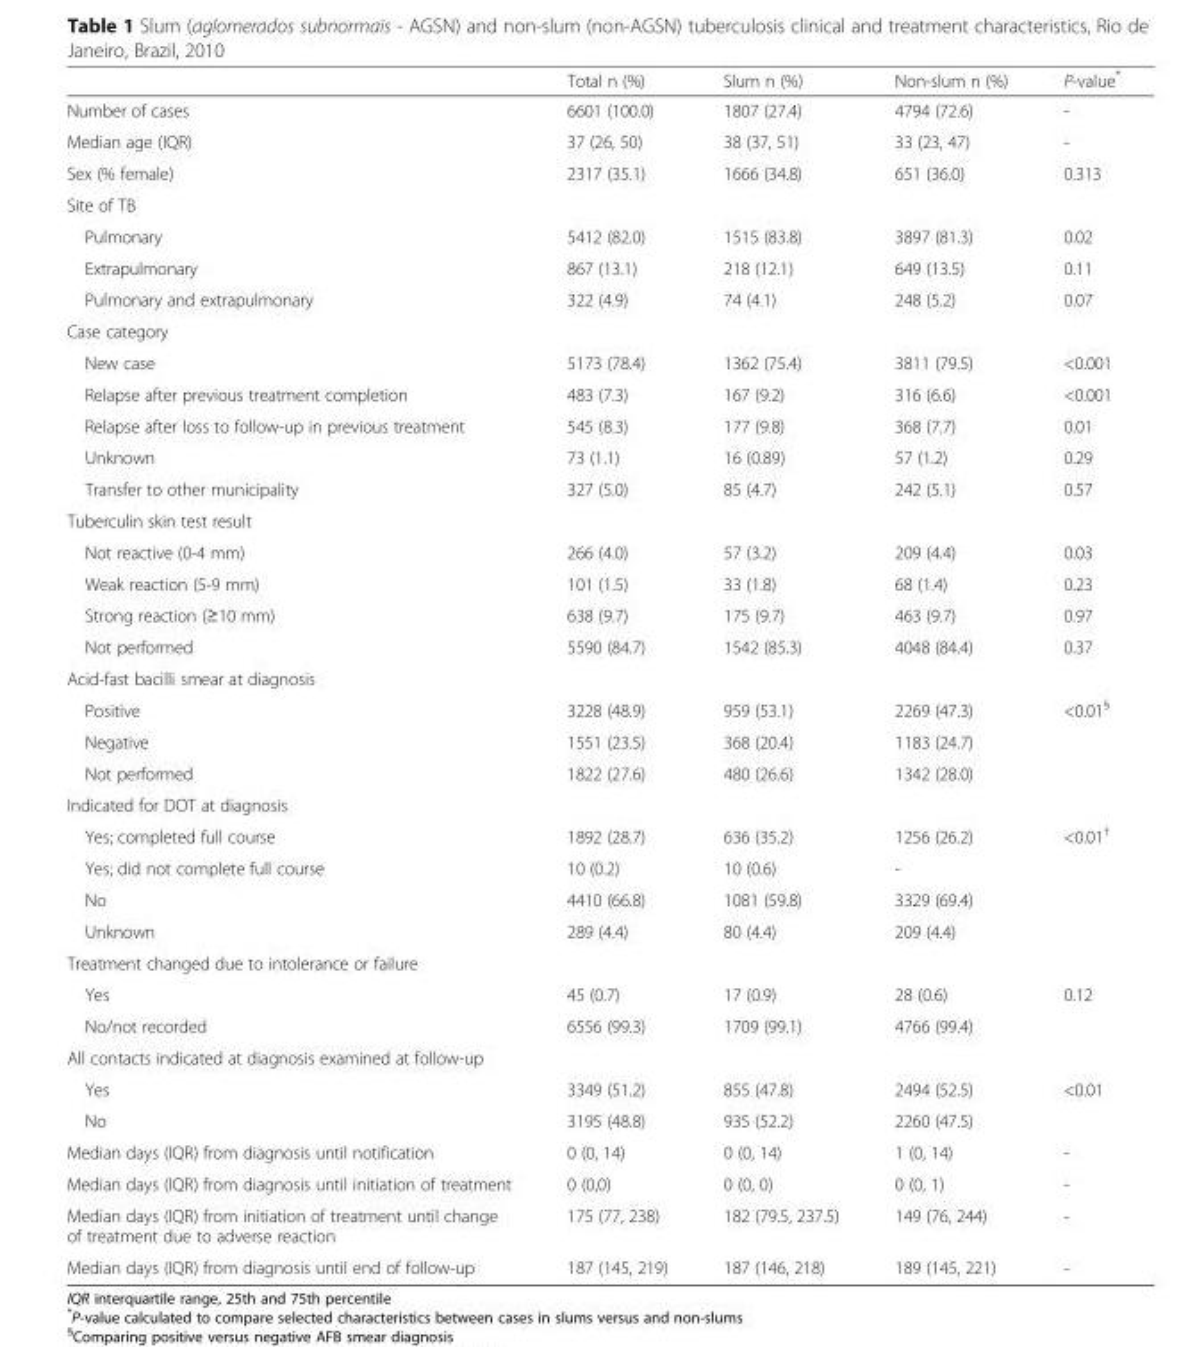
<table><thead><tr><td></td><td>Total n (%)</td><td>Slum n (%)</td><td>Non-slum n (%)</td><td>P-value*</td></tr></thead><tbody><tr><td>Number of cases</td><td>6601 (100.0)</td><td>1807 (27.4)</td><td>4794 (72.6)</td><td>-</td></tr><tr><td>Median age (IQR)</td><td>37 (26, 50)</td><td>38 (37, 51)</td><td>33 (23, 47)</td><td>-</td></tr><tr><td>Sex (% female)</td><td>2317 (35.1)</td><td>1666 (34.8)</td><td>651 (36.0)</td><td>0.313</td></tr><tr><td colspan="5">Site of TB</td></tr><tr><td>Pulmonary</td><td>5412 (82.0)</td><td>1515 (83.8)</td><td>3897 (81.3)</td><td>0.02</td></tr><tr><td>Extrapulmonary</td><td>867 (13.1)</td><td>218 (12.1)</td><td>649 (13.5)</td><td>0.11</td></tr><tr><td>Pulmonary and extrapulmonary</td><td>322 (4.9)</td><td>74 (4.1)</td><td>248 (5.2)</td><td>0.07</td></tr><tr><td colspan="5">Case category</td></tr><tr><td>New case</td><td>5173 (78.4)</td><td>1362 (75.4)</td><td>3811 (79.5)</td><td>&lt;0.001</td></tr><tr><td>Relapse after previous treatment completion</td><td>483 (7.3)</td><td>167 (9.2)</td><td>316 (6.6)</td><td>&lt;0.001</td></tr><tr><td>Relapse after loss to follow-up in previous treatment</td><td>545 (8.3)</td><td>177 (9.8)</td><td>368 (7.7)</td><td>0.01</td></tr><tr><td>Unknown</td><td>73 (1.1)</td><td>16 (0.89)</td><td>57 (1.2)</td><td>0.29</td></tr><tr><td>Transfer to other municipality</td><td>327 (5.0)</td><td>85 (4.7)</td><td>242 (5.1)</td><td>0.57</td></tr><tr><td colspan="5">Tuberculin skin test result</td></tr><tr><td>Not reactive (0-4 mm)</td><td>266 (4.0)</td><td>57 (3.2)</td><td>209 (4.4)</td><td>0.03</td></tr><tr><td>Weak reaction (5-9 mm)</td><td>101 (1.5)</td><td>33 (1.8)</td><td>68 (1.4)</td><td>0.23</td></tr><tr><td>Strong reaction (≥10 mm)</td><td>638 (9.7)</td><td>175 (9.7)</td><td>463 (9.7)</td><td>0.97</td></tr><tr><td>Not performed</td><td>5590 (84.7)</td><td>1542 (85.3)</td><td>4048 (84.4)</td><td>0.37</td></tr><tr><td colspan="5">Acid-fast bacilli smear at diagnosis</td></tr><tr><td>Positive</td><td>3228 (48.9)</td><td>959 (53.1)</td><td>2269 (47.3)</td><td>&lt;0.01<sup>§</sup></td></tr><tr><td>Negative</td><td>1551 (23.5)</td><td>368 (20.4)</td><td>1183 (24.7)</td><td></td></tr><tr><td>Not performed</td><td>1822 (27.6)</td><td>480 (26.6)</td><td>1342 (28.0)</td><td></td></tr><tr><td colspan="5">Indicated for DOT at diagnosis</td></tr><tr><td>Yes; completed full course</td><td>1892 (28.7)</td><td>636 (35.2)</td><td>1256 (26.2)</td><td>&lt;0.01<sup>†</sup></td></tr><tr><td>Yes; did not complete full course</td><td>10 (0.2)</td><td>10 (0.6)</td><td>-</td><td></td></tr><tr><td>No</td><td>4410 (66.8)</td><td>1081 (59.8)</td><td>3329 (69.4)</td><td></td></tr><tr><td>Unknown</td><td>289 (4.4)</td><td>80 (4.4)</td><td>209 (4.4)</td><td></td></tr><tr><td colspan="5">Treatment changed due to intolerance or failure</td></tr><tr><td>Yes</td><td>45 (0.7)</td><td>17 (0.9)</td><td>28 (0.6)</td><td>0.12</td></tr><tr><td>No/not recorded</td><td>6556 (99.3)</td><td>1709 (99.1)</td><td>4766 (99.4)</td><td></td></tr><tr><td colspan="5">All contacts indicated at diagnosis examined at follow-up</td></tr><tr><td>Yes</td><td>3349 (51.2)</td><td>855 (47.8)</td><td>2494 (52.5)</td><td>&lt;0.01</td></tr><tr><td>No</td><td>3195 (48.8)</td><td>935 (52.2)</td><td>2260 (47.5)</td><td></td></tr><tr><td>Median days (IQR) from diagnosis until notification</td><td>0 (0, 14)</td><td>0 (0, 14)</td><td>1 (0, 14)</td><td>-</td></tr><tr><td>Median days (IQR) from diagnosis until initiation of treatment</td><td>0 (0,0)</td><td>0 (0, 0)</td><td>0 (0, 1)</td><td>-</td></tr><tr><td>Median days (IQR) from initiation of treatment until change of treatment due to adverse reaction</td><td>175 (77, 238)</td><td>182 (79.5, 237.5)</td><td>149 (76, 244)</td><td>-</td></tr><tr><td>Median days (IQR) from diagnosis until end of follow-up</td><td>187 (145, 219)</td><td>187 (146, 218)</td><td>189 (145, 221)</td><td>-</td></tr></tbody></table>